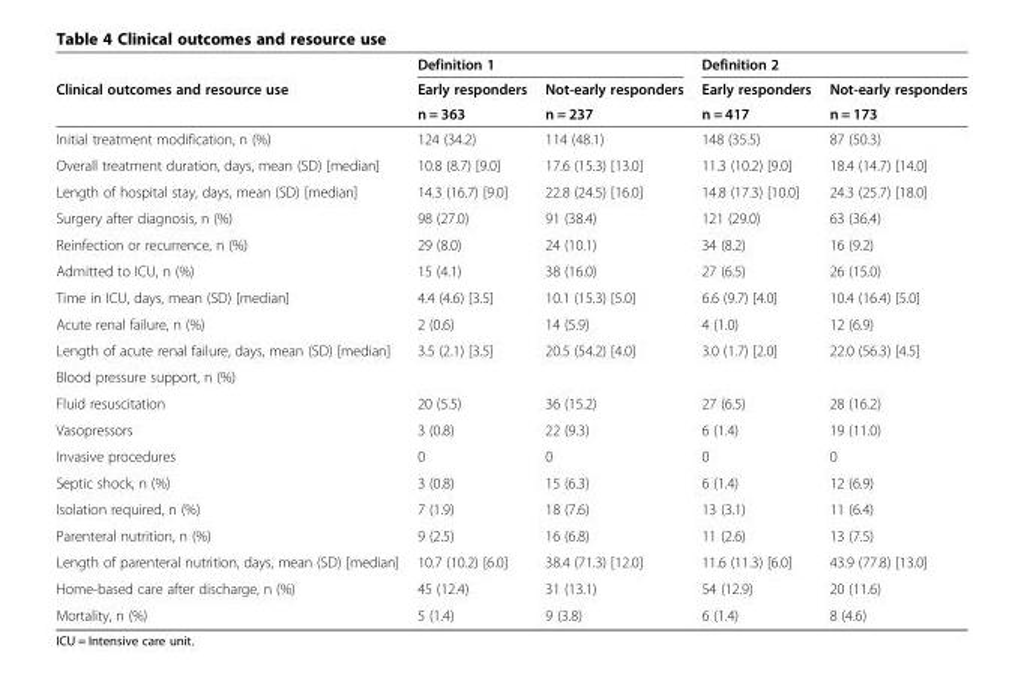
<table><thead><tr><td rowspan="3">Clinical outcomes and resource use</td><td colspan="2">Definition 1</td><td colspan="2">Definition 2</td></tr><tr><td rowspan="2">Early responders n = 363</td><td rowspan="2">Not-early responders n = 237</td><td rowspan="2">Early responders n = 417</td><td rowspan="2">Not-early responders n = 173</td></tr><tr></tr></thead><tbody><tr><td>Initial treatment modification, n (%)</td><td>124 (34.2)</td><td>114 (48.1)</td><td>148 (35.5)</td><td>87 (50.3)</td></tr><tr><td>Overall treatment duration, days, mean (SD) [median]</td><td>10.8 (8.7) [9.0]</td><td>17.6 (15.3) [13.0]</td><td>11.3 (10.2) [9.0]</td><td>18.4 (14.7) [14.0]</td></tr><tr><td>Length of hospital stay, days, mean (SD) [median]</td><td>14.3 (16.7) [9.0]</td><td>22.8 (24.5) [16.0]</td><td>14.8 (17.3) [10.0]</td><td>24.3 (25.7) [18.0]</td></tr><tr><td>Surgery after diagnosis, n (%)</td><td>98 (27.0)</td><td>91 (38.4)</td><td>121 (29.0)</td><td>63 (36.4)</td></tr><tr><td>Reinfection or recurrence, n (%)</td><td>29 (8.0)</td><td>24 (10.1)</td><td>34 (8.2)</td><td>16 (9.2)</td></tr><tr><td>Admitted to ICU, n (%)</td><td>15 (4.1)</td><td>38 (16.0)</td><td>27 (6.5)</td><td>26 (15.0)</td></tr><tr><td>Time in ICU, days, mean (SD) [median]</td><td>4.4 (4.6) [3.5]</td><td>10.1 (15.3) [5.0]</td><td>6.6 (9.7) [4.0]</td><td>10.4 (16.4) [5.0]</td></tr><tr><td>Acute renal failure, n (%)</td><td>2 (0.6)</td><td>14 (5.9)</td><td>4 (1.0)</td><td>12 (6.9)</td></tr><tr><td>Length of acute renal failure, days, mean (SD) [median]</td><td>3.5 (2.1) [3.5]</td><td>20.5 (54.2) [4.0]</td><td>3.0 (1.7) [2.0]</td><td>22.0 (56.3) [4.5]</td></tr><tr><td colspan="5">Blood pressure support, n (%)</td></tr><tr><td>Fluid resuscitation</td><td>20 (5.5)</td><td>36 (15.2)</td><td>27 (6.5)</td><td>28 (16.2)</td></tr><tr><td>Vasopressors</td><td>3 (0.8)</td><td>22 (9.3)</td><td>6 (1.4)</td><td>19 (11.0)</td></tr><tr><td>Invasive procedures</td><td>0</td><td>0</td><td>0</td><td>0</td></tr><tr><td>Septic shock, n (%)</td><td>3 (0.8)</td><td>15 (6.3)</td><td>6 (1.4)</td><td>12 (6.9)</td></tr><tr><td>Isolation required, n (%)</td><td>7 (1.9)</td><td>18 (7.6)</td><td>13 (3.1)</td><td>11 (6.4)</td></tr><tr><td>Parenteral nutrition, n (%)</td><td>9 (2.5)</td><td>16 (6.8)</td><td>11 (2.6)</td><td>13 (7.5)</td></tr><tr><td>Length of parenteral nutrition, days, mean (SD) [median]</td><td>10.7 (10.2) [6.0]</td><td>38.4 (71.3) [12.0]</td><td>11.6 (11.3) [6.0]</td><td>43.9 (77.8) [13.0]</td></tr><tr><td>Home-based care after discharge, n (%)</td><td>45 (12.4)</td><td>31 (13.1)</td><td>54 (12.9)</td><td>20 (11.6)</td></tr><tr><td>Mortality, n (%)</td><td>5 (1.4)</td><td>9 (3.8)</td><td>6 (1.4)</td><td>8 (4.6)</td></tr></tbody></table>